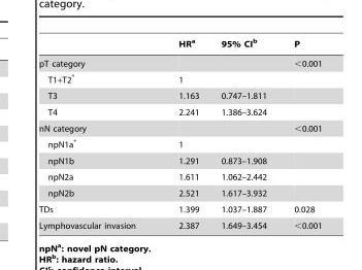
<table><thead><tr><td></td><td>HR<sup>a</sup></td><td>95% CI<sup>b</sup></td><td>P</td></tr></thead><tbody><tr><td>pT category</td><td></td><td></td><td>&lt;0.001</td></tr><tr><td>T1+T2*</td><td>1</td><td></td><td></td></tr><tr><td>T3</td><td>1.163</td><td>0.747–1.811</td><td></td></tr><tr><td>T4</td><td>2.241</td><td>1.386–3.624</td><td></td></tr><tr><td>nN category</td><td></td><td></td><td>&lt;0.001</td></tr><tr><td>npN1a*</td><td>1</td><td></td><td></td></tr><tr><td>npN1b</td><td>1.291</td><td>0.873–1.908</td><td></td></tr><tr><td>npN2a</td><td>1.611</td><td>1.062–2.442</td><td></td></tr><tr><td>npN2b</td><td>2.521</td><td>1.617–3.932</td><td></td></tr><tr><td>TDs</td><td>1.399</td><td>1.037–1.887</td><td>0.028</td></tr><tr><td>Lymphovascular invasion</td><td>2.387</td><td>1.649–3.454</td><td>&lt;0.001</td></tr></tbody></table>